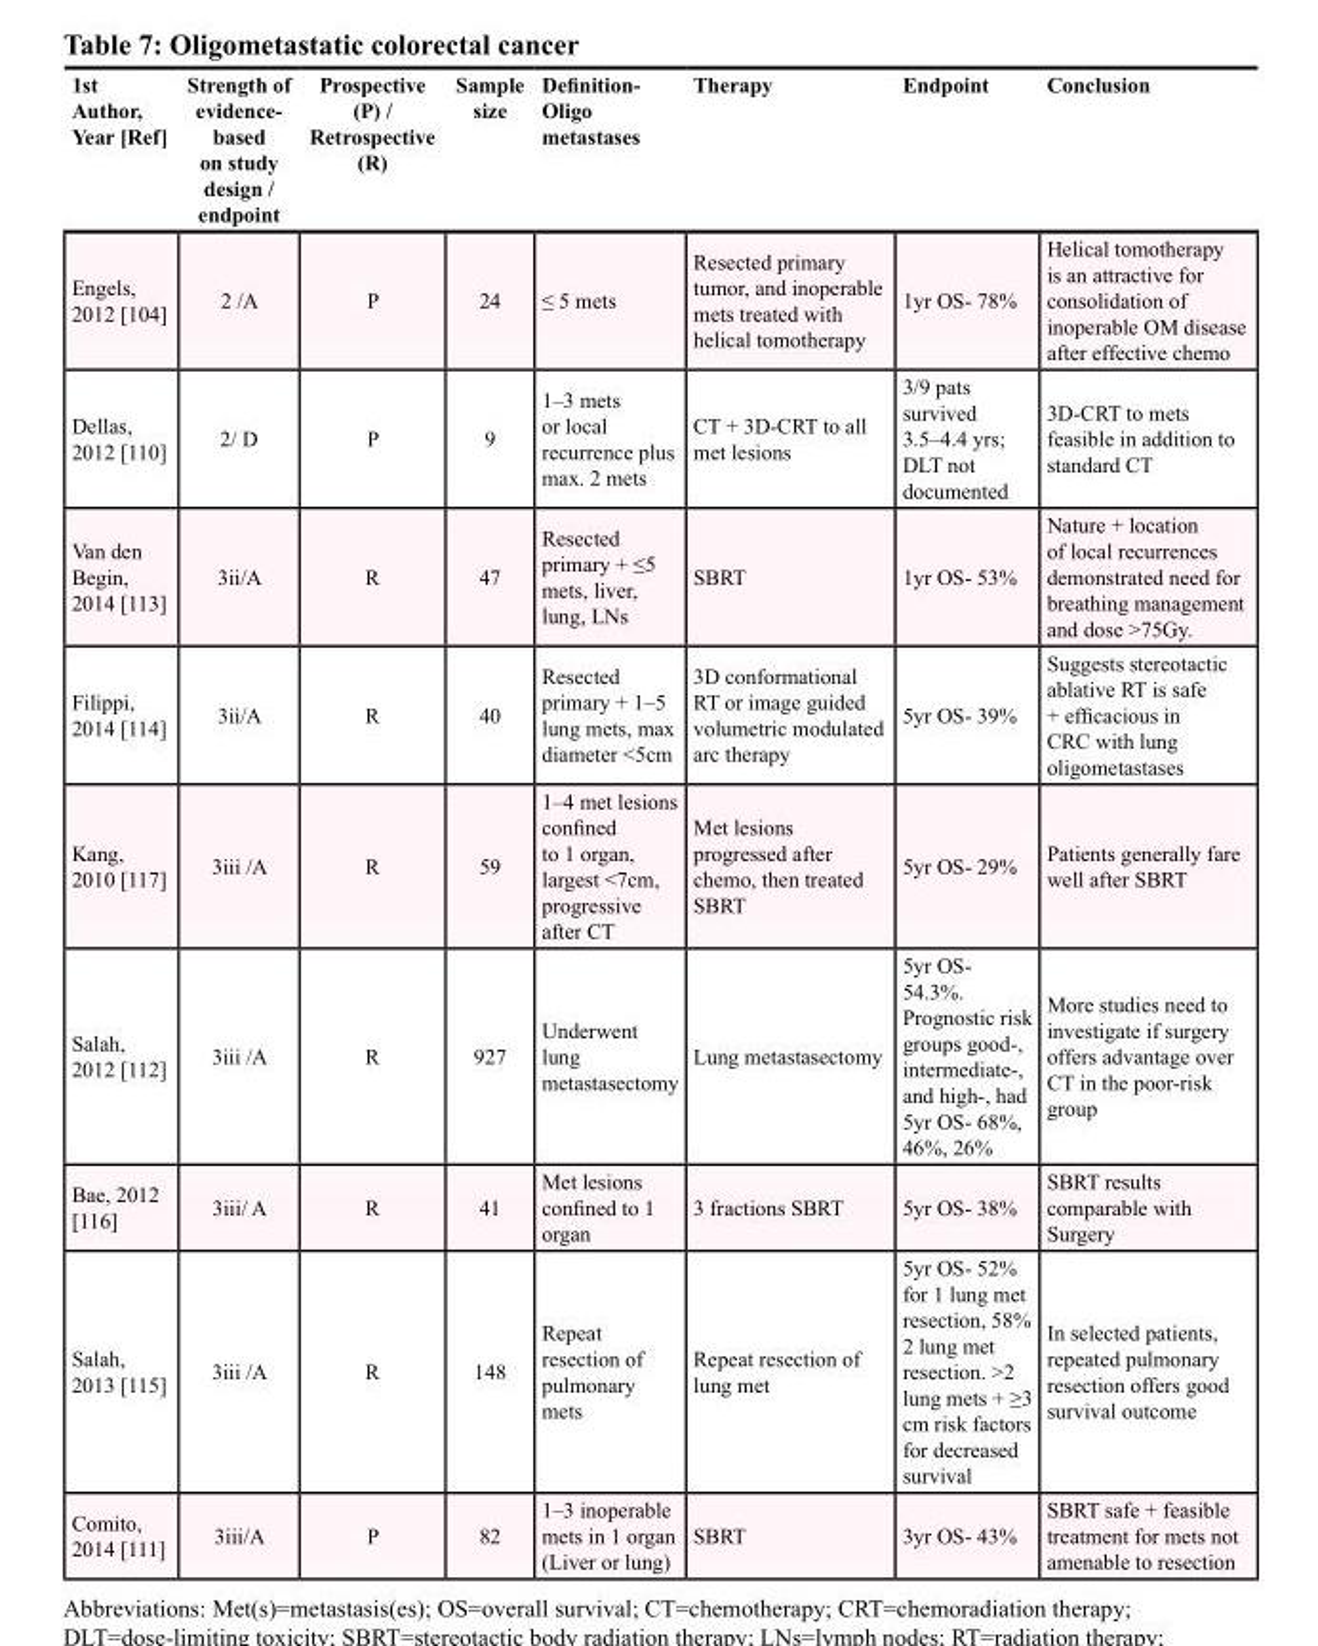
<table><thead><tr><td>1st Author, Year [Ref]</td><td>Strength of evidence based on study design / endpoint</td><td>Prospective (P) / Retrospective (R)</td><td>Sample size</td><td>Definition- Oligo metastases</td><td>Therapy</td><td>Endpoint</td><td>Conclusion</td></tr></thead><tbody><tr><td>Engels, 2012 [104]</td><td>2 /A</td><td>P</td><td>24</td><td>≤ 5 mets</td><td>Resected primary tumor, and inoperable mets treated with helical tomotherapy</td><td>1yr OS- 78%</td><td>Helical tomotherapy is an attractive for consolidation of inoperable OM disease after effective chemo</td></tr><tr><td>Dellas, 2012 [110]</td><td>2/ D</td><td>P</td><td>9</td><td>1–3 mets or local recurrence plus max. 2 mets</td><td>CT + 3D-CRT to all met lesions</td><td>3/9 pats survived 3.5–4.4 yrs; DLT not documented</td><td>3D-CRT to mets feasible in addition to standard CT</td></tr><tr><td>Van den Begin, 2014 [113]</td><td>3ii/A</td><td>R</td><td>47</td><td>Resected primary + ≤5 mets, liver, lung, LNs</td><td>SBRT</td><td>1yr OS- 53%</td><td>Nature + location of local recurrences demonstrated need for breathing management and dose &gt;75Gy.</td></tr><tr><td>Filippi, 2014 [114]</td><td>3ii/A</td><td>R</td><td>40</td><td>Resected primary + 1–5 lung mets, max diameter &lt;5cm</td><td>3D conformational RT or image guided volumetric modulated arc therapy</td><td>5yr OS- 39%</td><td>Suggests stereotactic ablative RT is safe + efficacious in CRC with lung oligometastases</td></tr><tr><td>Kang, 2010 [117]</td><td>3iii /A</td><td>R</td><td>59</td><td>1–4 met lesions confined to 1 organ, largest &lt;7cm, progressive after CT</td><td>Met lesions progressed after chemo, then treated SBRT</td><td>5yr OS- 29%</td><td>Patients generally fare well after SBRT</td></tr><tr><td>Salah, 2012 [112]</td><td>3iii /A</td><td>R</td><td>927</td><td>Underwent lung metastasectomy</td><td>Lung metastasectomy</td><td>5yr OS- 54.3%. Prognostic risk groups good-, intermediate-, and high-, had 5yr OS- 68%, 46%, 26%</td><td>More studies need to investigate if surgery offers advantage over CT in the poor-risk group</td></tr><tr><td>Bae, 2012 [116]</td><td>3iii/ A</td><td>R</td><td>41</td><td>Met lesions confined to 1 organ</td><td>3 fractions SBRT</td><td>5yr OS- 38%</td><td>SBRT results comparable with Surgery</td></tr><tr><td>Salah, 2013 [115]</td><td>3iii /A</td><td>R</td><td>148</td><td>Repeat resection of pulmonary mets</td><td>Repeat resection of lung met</td><td>5yr OS- 52% for 1 lung met resection, 58% 2 lung met resection. &gt;2 lung mets + ≥3 cm risk factors for decreased survival</td><td>In selected patients, repeated pulmonary resection offers good survival outcome</td></tr><tr><td>Comito, 2014 [111]</td><td>3iii/A</td><td>P</td><td>82</td><td>1–3 inoperable mets in 1 organ (Liver or lung)</td><td>SBRT</td><td>3yr OS- 43%</td><td>SBRT safe + feasible treatment for mets not amenable to resection</td></tr></tbody></table>